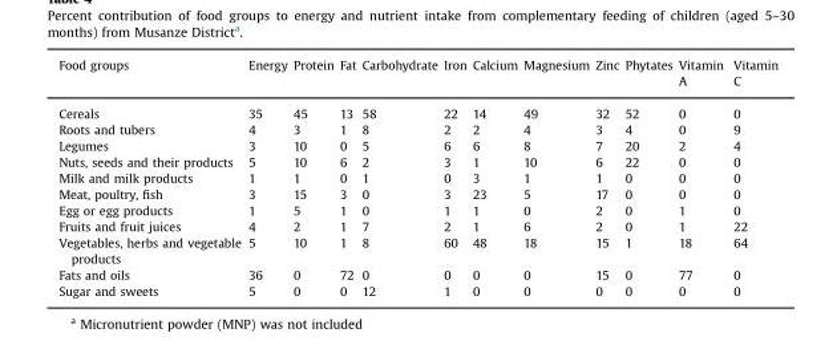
<table><thead><tr><td>Food groups</td><td>Energy</td><td>Protein</td><td>Fat</td><td>Carbohydrate</td><td>Iron</td><td>Calcium</td><td>Magnesium</td><td>Zinc</td><td>Phytates</td><td>Vitamin A</td><td>Vitamin C</td></tr></thead><tbody><tr><td>Cereals</td><td>35</td><td>45</td><td>13</td><td>58</td><td>22</td><td>14</td><td>49</td><td>32</td><td>52</td><td>0</td><td>0</td></tr><tr><td>Roots and tubers</td><td>4</td><td>3</td><td>1</td><td>8</td><td>2</td><td>2</td><td>4</td><td>3</td><td>4</td><td>0</td><td>9</td></tr><tr><td>Legumes</td><td>3</td><td>10</td><td>0</td><td>5</td><td>6</td><td>6</td><td>8</td><td>7</td><td>20</td><td>2</td><td>4</td></tr><tr><td>Nuts, seeds and their products</td><td>5</td><td>10</td><td>6</td><td>2</td><td>3</td><td>1</td><td>10</td><td>6</td><td>22</td><td>0</td><td>0</td></tr><tr><td>Milk and milk products</td><td>1</td><td>1</td><td>0</td><td>1</td><td>0</td><td>3</td><td>1</td><td>1</td><td>0</td><td>0</td><td>0</td></tr><tr><td>Meat, poultry, fish</td><td>3</td><td>15</td><td>3</td><td>0</td><td>3</td><td>23</td><td>5</td><td>17</td><td>0</td><td>0</td><td>0</td></tr><tr><td>Egg or egg products</td><td>1</td><td>5</td><td>1</td><td>0</td><td>1</td><td>1</td><td>0</td><td>2</td><td>0</td><td>1</td><td>0</td></tr><tr><td>Fruits and fruit juices</td><td>4</td><td>2</td><td>1</td><td>7</td><td>2</td><td>1</td><td>6</td><td>2</td><td>0</td><td>1</td><td>22</td></tr><tr><td>Vegetables, herbs and vegetable products</td><td>5</td><td>10</td><td>1</td><td>8</td><td>60</td><td>48</td><td>18</td><td>15</td><td>1</td><td>18</td><td>64</td></tr><tr><td>Fats and oils</td><td>36</td><td>0</td><td>72</td><td>0</td><td>0</td><td>0</td><td>0</td><td>15</td><td>0</td><td>77</td><td>0</td></tr><tr><td>Sugar and sweets</td><td>5</td><td>0</td><td>0</td><td>12</td><td>1</td><td>0</td><td>0</td><td>0</td><td>0</td><td>0</td><td>0</td></tr></tbody></table>